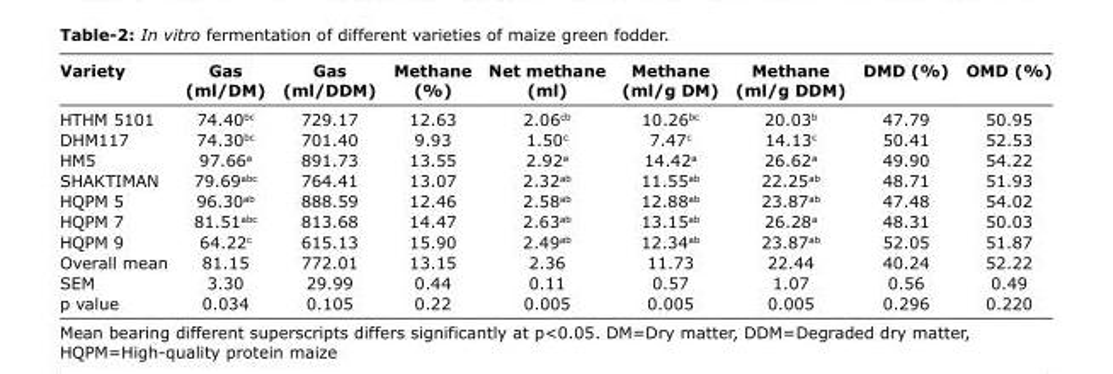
<table><thead><tr><td>Variety</td><td>Gas (ml/DM)</td><td>Gas (ml/DDM)</td><td>Methane (%)</td><td>Net methane (ml)</td><td>Methane (ml/g DM)</td><td>Methane (ml/g DDM)</td><td>DMD (%)</td><td>OMD (%)</td></tr></thead><tbody><tr><td>HTHM 5101</td><td>74.40<sup>bc</sup></td><td>729.17</td><td>12.63</td><td>2.06<sup>cb</sup></td><td>10.26<sup>bc</sup></td><td>20.03<sup>b</sup></td><td>47.79</td><td>50.95</td></tr><tr><td>DHM117</td><td>74.30<sup>bc</sup></td><td>701.40</td><td>9.93</td><td>1.50<sup>c</sup></td><td>7.47<sup>c</sup></td><td>14.13<sup>c</sup></td><td>50.41</td><td>52.53</td></tr><tr><td>HM5</td><td>97.66<sup>a</sup></td><td>891.73</td><td>13.55</td><td>2.92<sup>a</sup></td><td>14.42<sup>a</sup></td><td>26.62<sup>a</sup></td><td>49.90</td><td>54.22</td></tr><tr><td>SHAKTIMAN</td><td>79.69<sup>abc</sup></td><td>764.41</td><td>13.07</td><td>2.32<sup>ab</sup></td><td>11.55<sup>ab</sup></td><td>22.25<sup>ab</sup></td><td>48.71</td><td>51.93</td></tr><tr><td>HQPM 5</td><td>96.30<sup>ab</sup></td><td>888.59</td><td>12.46</td><td>2.58<sup>ab</sup></td><td>12.88<sup>ab</sup></td><td>23.87<sup>ab</sup></td><td>47.48</td><td>54.02</td></tr><tr><td>HQPM 7</td><td>81.51<sup>abc</sup></td><td>813.68</td><td>14.47</td><td>2.63<sup>ab</sup></td><td>13.15<sup>ab</sup></td><td>26.28<sup>a</sup></td><td>48.31</td><td>50.03</td></tr><tr><td>HQPM 9</td><td>64.22<sup>c</sup></td><td>615.13</td><td>15.90</td><td>2.49<sup>ab</sup></td><td>12.34<sup>ab</sup></td><td>23.87<sup>ab</sup></td><td>52.05</td><td>51.87</td></tr><tr><td>Overall mean</td><td>81.15</td><td>772.01</td><td>13.15</td><td>2.36</td><td>11.73</td><td>22.44</td><td>40.24</td><td>52.22</td></tr><tr><td>SEM</td><td>3.30</td><td>29.99</td><td>0.44</td><td>0.11</td><td>0.57</td><td>1.07</td><td>0.56</td><td>0.49</td></tr><tr><td>p value</td><td>0.034</td><td>0.105</td><td>0.22</td><td>0.005</td><td>0.005</td><td>0.005</td><td>0.296</td><td>0.220</td></tr></tbody></table>